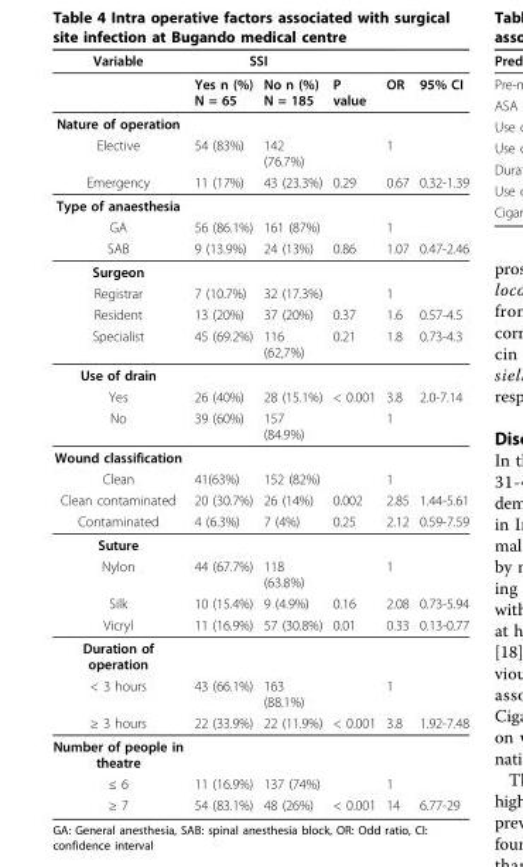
<table><thead><tr><td rowspan="2">Variable</td><td colspan="2">SSI</td><td rowspan="2">P value</td><td rowspan="2">OR</td><td rowspan="2">95% CI</td></tr><tr><td>Yes n (%) N = 65</td><td>No n (%) N = 185</td></tr></thead><tbody><tr><td colspan="6">Nature of operation</td></tr><tr><td>Elective</td><td>54 (83%)</td><td>142 (76.7%)</td><td></td><td>1</td><td></td></tr><tr><td>Emergency</td><td>11 (17%)</td><td>43 (23.3%)</td><td>0.29</td><td>0.67</td><td>0.32-1.39</td></tr><tr><td colspan="6">Type of anaesthesia</td></tr><tr><td>GA</td><td>56 (86.1%)</td><td>161 (87%)</td><td></td><td>1</td><td></td></tr><tr><td>SAB</td><td>9 (13.9%)</td><td>24 (13%)</td><td>0.86</td><td>1.07</td><td>0.47-2.46</td></tr><tr><td colspan="6">Surgeon</td></tr><tr><td>Registrar</td><td>7 (10.7%)</td><td>32 (17.3%)</td><td></td><td>1</td><td></td></tr><tr><td>Resident</td><td>13 (20%)</td><td>37 (20%)</td><td>0.37</td><td>1.6</td><td>0.57-4.5</td></tr><tr><td>Specialist</td><td>45 (69.2%)</td><td>116 (62,7%)</td><td>0.21</td><td>1.8</td><td>0.73-4.3</td></tr><tr><td colspan="6">Use of drain</td></tr><tr><td>Yes</td><td>26 (40%)</td><td>28 (15.1%)</td><td>&lt; 0.001</td><td>3.8</td><td>2.0-7.14</td></tr><tr><td>No</td><td>39 (60%)</td><td>157 (84.9%)</td><td></td><td>1</td><td></td></tr><tr><td colspan="6">Wound classification</td></tr><tr><td>Clean</td><td>41(63%)</td><td>152 (82%)</td><td></td><td>1</td><td></td></tr><tr><td>Clean contaminated</td><td>20 (30.7%)</td><td>26 (14%)</td><td>0.002</td><td>2.85</td><td>1.44-5.61</td></tr><tr><td>Contaminated</td><td>4 (6.3%)</td><td>7 (4%)</td><td>0.25</td><td>2.12</td><td>0.59-7.59</td></tr><tr><td colspan="6">Suture</td></tr><tr><td>Nylon</td><td>44 (67.7%)</td><td>118 (63.8%)</td><td></td><td>1</td><td></td></tr><tr><td>Silk</td><td>10 (15.4%)</td><td>9 (4.9%)</td><td>0.16</td><td>2.08</td><td>0.73-5.94</td></tr><tr><td>Vicryl</td><td>11 (16.9%)</td><td>57 (30.8%)</td><td>0.01</td><td>0.33</td><td>0.13-0.77</td></tr><tr><td colspan="6">Duration of operation</td></tr><tr><td>&lt; 3 hours</td><td>43 (66.1%)</td><td>163 (88.1%)</td><td></td><td>1</td><td></td></tr><tr><td>≥ 3 hours</td><td>22 (33.9%)</td><td>22 (11.9%)</td><td>&lt; 0.001</td><td>3.8</td><td>1.92-7.48</td></tr><tr><td colspan="6">Number of people in theatre</td></tr><tr><td>≤ 6</td><td>11 (16.9%)</td><td>137 (74%)</td><td></td><td>1</td><td></td></tr><tr><td>≥ 7</td><td>54 (83.1%)</td><td>48 (26%)</td><td>&lt; 0.001</td><td>14</td><td>6.77-29</td></tr></tbody></table>